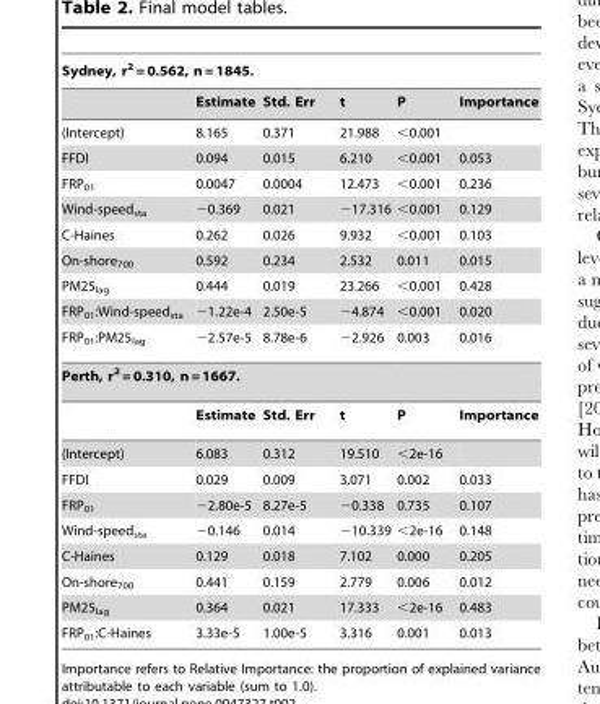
<table><thead><tr><td colspan="6">Sydney, r<sup>2</sup> = 0.562, n = 1845.</td></tr><tr><td></td><td>Estimate</td><td>Std. Err</td><td>t</td><td>P</td><td>Importance</td></tr></thead><tbody><tr><td>(Intercept)</td><td>8.165</td><td>0.371</td><td>21.988</td><td>&lt;0.001</td><td></td></tr><tr><td>FFDI</td><td>0.094</td><td>0.015</td><td>6.210</td><td>&lt;0.001</td><td>0.053</td></tr><tr><td>FRP<sub>01</sub></td><td>0.0047</td><td>0.0004</td><td>12.473</td><td>&lt;0.001</td><td>0.236</td></tr><tr><td>Wind-speed<sub>sta</sub></td><td>−0.369</td><td>0.021</td><td>−17.316</td><td>&lt;0.001</td><td>0.129</td></tr><tr><td>C-Haines</td><td>0.262</td><td>0.026</td><td>9.932</td><td>&lt;0.001</td><td>0.103</td></tr><tr><td>On-shore<sub>700</sub></td><td>0.592</td><td>0.234</td><td>2.532</td><td>0.011</td><td>0.015</td></tr><tr><td>PM25<sub>lag</sub></td><td>0.444</td><td>0.019</td><td>23.266</td><td>&lt;0.001</td><td>0.428</td></tr><tr><td>FRP<sub>01</sub>:Wind-speed<sub>sta</sub></td><td>−1.22e-4</td><td>2.50e-5</td><td>−4.874</td><td>&lt;0.001</td><td>0.020</td></tr><tr><td>FRP<sub>01</sub>:PM25<sub>lag</sub></td><td>−2.57e-5</td><td>8.78e-6</td><td>−2.926</td><td>0.003</td><td>0.016</td></tr><tr><td colspan="6">Perth, r<sup>2</sup> = 0.310, n = 1667.</td></tr><tr><td></td><td>Estimate</td><td>Std. Err</td><td>t</td><td>P</td><td>Importance</td></tr><tr><td>(Intercept)</td><td>6.083</td><td>0.312</td><td>19.510</td><td>&lt;2e-16</td><td></td></tr><tr><td>FFDI</td><td>0.029</td><td>0.009</td><td>3.071</td><td>0.002</td><td>0.033</td></tr><tr><td>FRP<sub>01</sub></td><td>−2.80e-5</td><td>8.27e-5</td><td>−0.338</td><td>0.735</td><td>0.107</td></tr><tr><td>Wind-speed<sub>sta</sub></td><td>−0.146</td><td>0.014</td><td>−10.339</td><td>&lt;2e-16</td><td>0.148</td></tr><tr><td>C-Haines</td><td>0.129</td><td>0.018</td><td>7.102</td><td>0.000</td><td>0.205</td></tr><tr><td>On-shore<sub>700</sub></td><td>0.441</td><td>0.159</td><td>2.779</td><td>0.006</td><td>0.012</td></tr><tr><td>PM25<sub>lag</sub></td><td>0.364</td><td>0.021</td><td>17.333</td><td>&lt;2e-16</td><td>0.483</td></tr><tr><td>FRP<sub>01</sub>:C-Haines</td><td>3.33e-5</td><td>1.00e-5</td><td>3.316</td><td>0.001</td><td>0.013</td></tr></tbody></table>